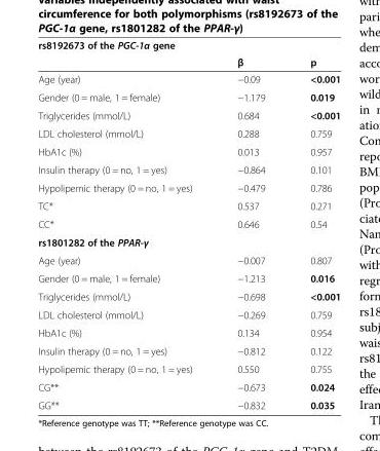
<table><thead><tr><td colspan="3">rs8192673 of the PGC-1α gene</td></tr><tr><td></td><td>β</td><td>p</td></tr></thead><tbody><tr><td>Age (year)</td><td>−0.09</td><td>&lt;0.001</td></tr><tr><td>Gender (0 = male, 1 = female)</td><td>−1.179</td><td>0.019</td></tr><tr><td>Triglycerides (mmol/L)</td><td>0.684</td><td>&lt;0.001</td></tr><tr><td>LDL cholesterol (mmol/L)</td><td>0.288</td><td>0.759</td></tr><tr><td>HbA1c (%)</td><td>0.013</td><td>0.957</td></tr><tr><td>Insulin therapy (0 = no, 1 = yes)</td><td>−0.864</td><td>0.101</td></tr><tr><td>Hypolipemic therapy (0 = no, 1 = yes)</td><td>−0.479</td><td>0.786</td></tr><tr><td>TC*</td><td>0.537</td><td>0.271</td></tr><tr><td>CC*</td><td>0.646</td><td>0.54</td></tr><tr><td colspan="3">rs1801282 of the PPAR-γ</td></tr><tr><td>Age (year)</td><td>−0.007</td><td>0.807</td></tr><tr><td>Gender (0 = male, 1 = female)</td><td>−1.213</td><td>0.016</td></tr><tr><td>Triglycerides (mmol/L)</td><td>−0.698</td><td>&lt;0.001</td></tr><tr><td>LDL cholesterol (mmol/L)</td><td>−0.269</td><td>0.759</td></tr><tr><td>HbA1c (%)</td><td>0.134</td><td>0.954</td></tr><tr><td>Insulin therapy (0 = no, 1 = yes)</td><td>−0.812</td><td>0.122</td></tr><tr><td>Hypolipemic therapy (0 = no, 1 = yes)</td><td>0.550</td><td>0.755</td></tr><tr><td>CG**</td><td>−0.673</td><td>0.024</td></tr><tr><td>GG**</td><td>−0.832</td><td>0.035</td></tr></tbody></table>